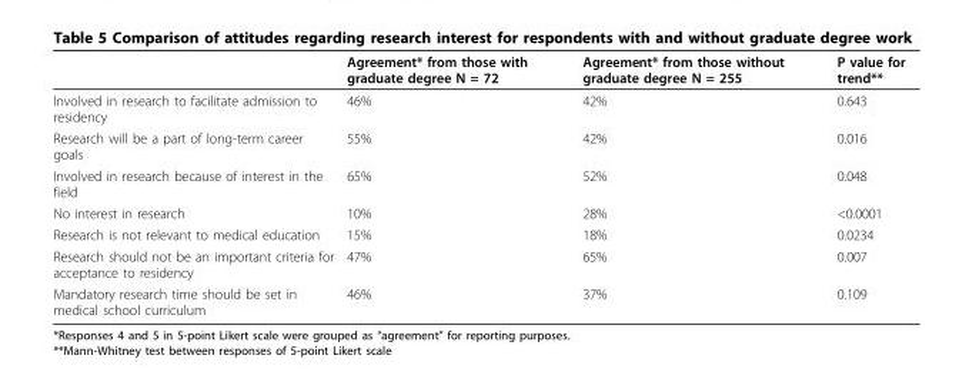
<table><thead><tr><td></td><td>Agreement* from those with graduate degree N = 72</td><td>Agreement* from those without graduate degree N = 255</td><td>P value for trend**</td></tr></thead><tbody><tr><td>Involved in research to facilitate admission to residency</td><td>46%</td><td>42%</td><td>0.643</td></tr><tr><td>Research will be a part of long-term career goals</td><td>55%</td><td>42%</td><td>0.016</td></tr><tr><td>Involved in research because of interest in the field</td><td>65%</td><td>52%</td><td>0.048</td></tr><tr><td>No interest in research</td><td>10%</td><td>28%</td><td>&lt;0.0001</td></tr><tr><td>Research is not relevant to medical education</td><td>15%</td><td>18%</td><td>0.0234</td></tr><tr><td>Research should not be an important criteria for acceptance to residency</td><td>47%</td><td>65%</td><td>0.007</td></tr><tr><td>Mandatory research time should be set in medical school curriculum</td><td>46%</td><td>37%</td><td>0.109</td></tr></tbody></table>